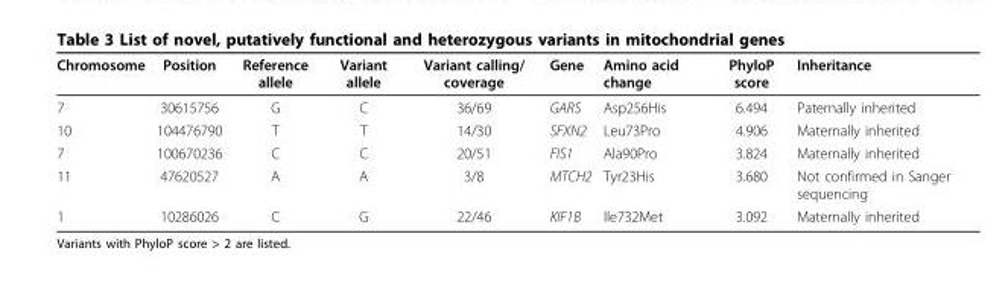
<table><thead><tr><td>Chromosome</td><td>Position</td><td>Reference allele</td><td>Variant allele</td><td>Variant calling/ coverage</td><td>Gene</td><td>Amino acid change</td><td>PhyloP score</td><td>Inheritance</td></tr></thead><tbody><tr><td>7</td><td>30615756</td><td>G</td><td>C</td><td>36/69</td><td>GARS</td><td>Asp256His</td><td>6.494</td><td>Paternally inherited</td></tr><tr><td>10</td><td>104476790</td><td>T</td><td>T</td><td>14/30</td><td>SFXN2</td><td>Leu73Pro</td><td>4.906</td><td>Maternally inherited</td></tr><tr><td>7</td><td>100670236</td><td>C</td><td>C</td><td>20/51</td><td>FIS1</td><td>Ala90Pro</td><td>3.824</td><td>Maternally inherited</td></tr><tr><td>11</td><td>47620527</td><td>A</td><td>A</td><td>3/8</td><td>MTCH2</td><td>Tyr23His</td><td>3.680</td><td>Not confirmed in Sanger sequencing</td></tr><tr><td>1</td><td>10286026</td><td>C</td><td>G</td><td>22/46</td><td>KIF1B</td><td>Ile732Met</td><td>3.092</td><td>Maternally inherited</td></tr></tbody></table>